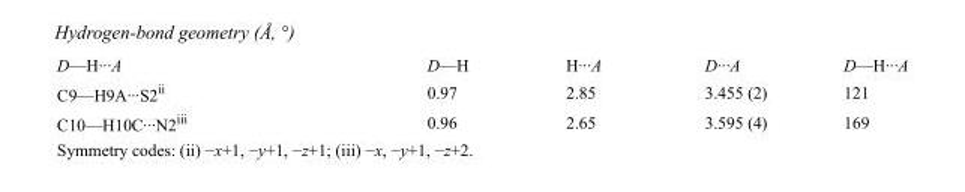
<table><tbody><tr><td>D—H···A</td><td>D—H</td><td>H···A</td><td>D···A</td><td>D—H···A</td></tr><tr><td>C9—H9A···S2<sup>ii</sup></td><td>0.97</td><td>2.85</td><td>3.455 (2)</td><td>121</td></tr><tr><td>C10—H10C···N2<sup>iii</sup></td><td>0.96</td><td>2.65</td><td>3.595 (4)</td><td>169</td></tr></tbody></table>